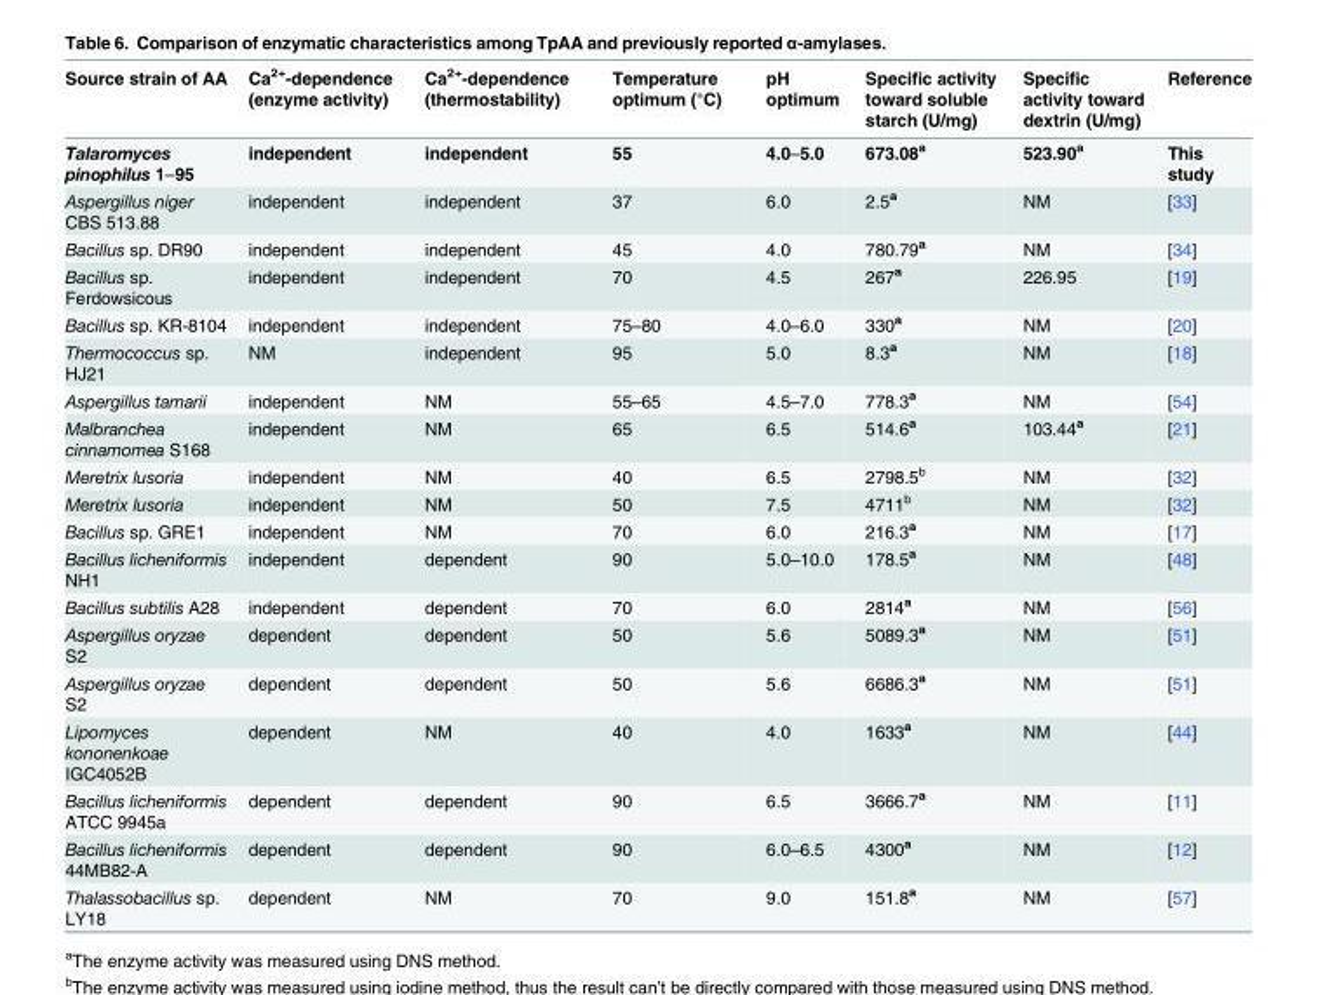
<table><thead><tr><td>Source strain of AA</td><td>Ca<sup>2+</sup>-dependence (enzyme activity)</td><td>Ca<sup>2+</sup>-dependence (thermostability)</td><td>Temperature optimum (°C)</td><td>pH optimum</td><td>Specific activity toward soluble starch (U/mg)</td><td>Specific activity toward dextrin (U/mg)</td><td>Reference</td></tr></thead><tbody><tr><td>Talaromyces pinophilus 1–95</td><td>independent</td><td>independent</td><td>55</td><td>4.0–5.0</td><td>673.08<sup>a</sup></td><td>523.90<sup>a</sup></td><td>This study</td></tr><tr><td>Aspergillus niger CBS 513.88</td><td>independent</td><td>independent</td><td>37</td><td>6.0</td><td>2.5<sup>a</sup></td><td>NM</td><td>[33]</td></tr><tr><td>Bacillus sp. DR90</td><td>independent</td><td>independent</td><td>45</td><td>4.0</td><td>780.79<sup>a</sup></td><td>NM</td><td>[34]</td></tr><tr><td>Bacillus sp. Ferdowsicous</td><td>independent</td><td>independent</td><td>70</td><td>4.5</td><td>267<sup>a</sup></td><td>226.95</td><td>[19]</td></tr><tr><td>Bacillus sp. KR-8104</td><td>independent</td><td>independent</td><td>75–80</td><td>4.0–6.0</td><td>330<sup>a</sup></td><td>NM</td><td>[20]</td></tr><tr><td>Thermococcus sp. HJ21</td><td>NM</td><td>independent</td><td>95</td><td>5.0</td><td>8.3<sup>a</sup></td><td>NM</td><td>[18]</td></tr><tr><td>Aspergillus tamarii</td><td>independent</td><td>NM</td><td>55–65</td><td>4.5–7.0</td><td>778.3<sup>a</sup></td><td>NM</td><td>[54]</td></tr><tr><td>Malbranchea cinnamomea S168</td><td>independent</td><td>NM</td><td>65</td><td>6.5</td><td>514.6<sup>a</sup></td><td>103.44<sup>a</sup></td><td>[21]</td></tr><tr><td>Meretrix lusoria</td><td>independent</td><td>NM</td><td>40</td><td>6.5</td><td>2798.5<sup>b</sup></td><td>NM</td><td>[32]</td></tr><tr><td>Meretrix lusoria</td><td>independent</td><td>NM</td><td>50</td><td>7.5</td><td>4711<sup>b</sup></td><td>NM</td><td>[32]</td></tr><tr><td>Bacillus sp. GRE1</td><td>independent</td><td>NM</td><td>70</td><td>6.0</td><td>216.3<sup>a</sup></td><td>NM</td><td>[17]</td></tr><tr><td>Bacillus licheniformis NH1</td><td>independent</td><td>dependent</td><td>90</td><td>5.0–10.0</td><td>178.5<sup>a</sup></td><td>NM</td><td>[48]</td></tr><tr><td>Bacillus subtilis A28</td><td>independent</td><td>dependent</td><td>70</td><td>6.0</td><td>2814<sup>a</sup></td><td>NM</td><td>[56]</td></tr><tr><td>Aspergillus oryzae S2</td><td>dependent</td><td>dependent</td><td>50</td><td>5.6</td><td>5089.3<sup>a</sup></td><td>NM</td><td>[51]</td></tr><tr><td>Aspergillus oryzae S2</td><td>dependent</td><td>dependent</td><td>50</td><td>5.6</td><td>6686.3<sup>a</sup></td><td>NM</td><td>[51]</td></tr><tr><td>Lipomyces kononenkoae IGC4052B</td><td>dependent</td><td>NM</td><td>40</td><td>4.0</td><td>1633<sup>a</sup></td><td>NM</td><td>[44]</td></tr><tr><td>Bacillus licheniformis ATCC 9945a</td><td>dependent</td><td>dependent</td><td>90</td><td>6.5</td><td>3666.7<sup>a</sup></td><td>NM</td><td>[11]</td></tr><tr><td>Bacillus licheniformis 44MB82-A</td><td>dependent</td><td>dependent</td><td>90</td><td>6.0–6.5</td><td>4300<sup>a</sup></td><td>NM</td><td>[12]</td></tr><tr><td>Thalassobacillus sp. LY18</td><td>dependent</td><td>NM</td><td>70</td><td>9.0</td><td>151.8<sup>a</sup></td><td>NM</td><td>[57]</td></tr></tbody></table>